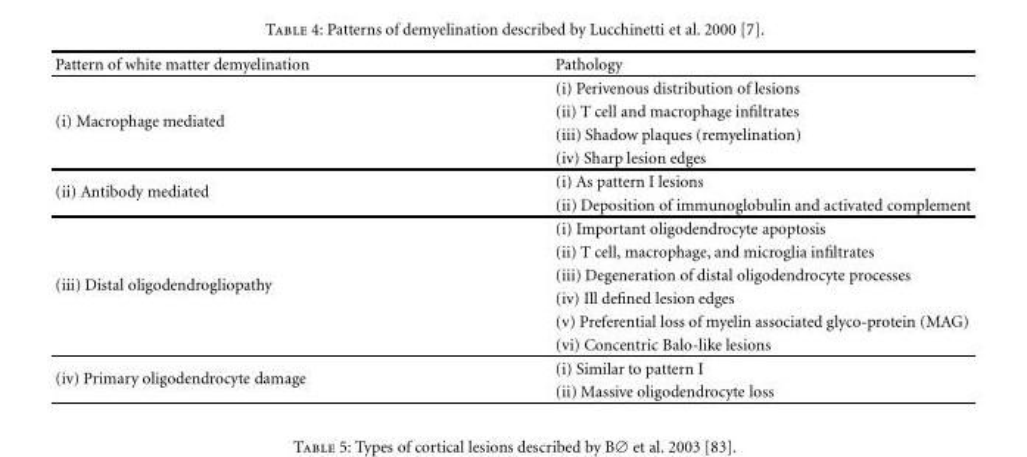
<table><thead><tr><td>Pattern of white matter demyelination</td><td>Pathology</td></tr></thead><tbody><tr><td rowspan="4">(i) Macrophage mediated</td><td>(i) Perivenous distribution of lesions</td></tr><tr><td>(ii) T cell and macrophage infiltrates</td></tr><tr><td>(iii) Shadow plaques (remyelination)</td></tr><tr><td>(iv) Sharp lesion edges</td></tr><tr><td rowspan="2">(ii) Antibody mediated</td><td>(i) As pattern I lesions</td></tr><tr><td>(ii) Deposition of immunoglobulin and activated complement</td></tr><tr><td rowspan="6">(iii) Distal oligodendrogliopathy</td><td>(i) Important oligodendrocyte apoptosis</td></tr><tr><td>(ii) T cell, macrophage, and microglia infiltrates</td></tr><tr><td>(iii) Degeneration of distal oligodendrocyte processes</td></tr><tr><td>(iv) Ill defined lesion edges</td></tr><tr><td>(v) Preferential loss of myelin associated glyco-protein (MAG)</td></tr><tr><td>(vi) Concentric Balo-like lesions</td></tr><tr><td rowspan="2">(iv) Primary oligodendrocyte damage</td><td>(i) Similar to pattern I</td></tr><tr><td>(ii) Massive oligodendrocyte loss</td></tr></tbody></table>